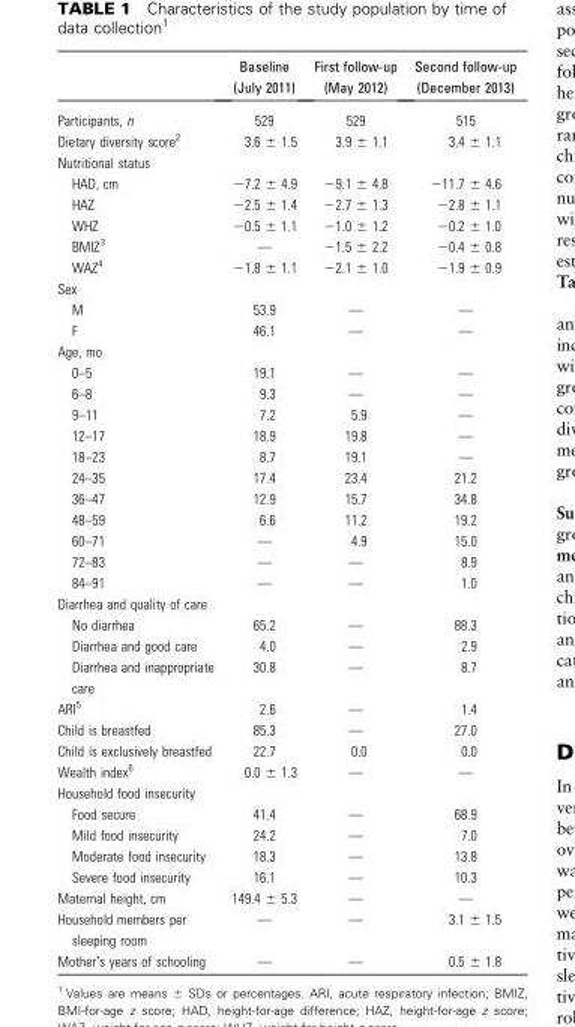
<table><thead><tr><td></td><td>Baseline (July 2011)</td><td>First follow-up (May 2012)</td><td>Second follow-up (December 2013)</td></tr></thead><tbody><tr><td>Participants, n</td><td>529</td><td>529</td><td>515</td></tr><tr><td>Dietary diversity score<sup>2</sup></td><td>3.6 ± 1.5</td><td>3.9 ± 1.1</td><td>3.4 ± 1.1</td></tr><tr><td colspan="4">Nutritional status</td></tr><tr><td>HAD, cm</td><td>−7.2 ± 4.9</td><td>−9.1 ± 4.8</td><td>−11.7 ± 4.6</td></tr><tr><td>HAZ</td><td>−2.5 ± 1.4</td><td>−2.7 ± 1.3</td><td>−2.8 ± 1.1</td></tr><tr><td>WHZ</td><td>−0.5 ± 1.1</td><td>−1.0 ± 1.2</td><td>−0.2 ± 1.0</td></tr><tr><td>BMIZ<sup>3</sup></td><td>—</td><td>−1.5 ± 2.2</td><td>−0.4 ± 0.8</td></tr><tr><td>WAZ<sup>4</sup></td><td>−1.8 ± 1.1</td><td>−2.1 ± 1.0</td><td>−1.9 ± 0.9</td></tr><tr><td colspan="4">Sex</td></tr><tr><td>M</td><td>53.9</td><td>—</td><td>—</td></tr><tr><td>F</td><td>46.1</td><td>—</td><td>—</td></tr><tr><td colspan="4">Age, mo</td></tr><tr><td>0–5</td><td>19.1</td><td>—</td><td>—</td></tr><tr><td>6–8</td><td>9.3</td><td>—</td><td>—</td></tr><tr><td>9–11</td><td>7.2</td><td>5.9</td><td>—</td></tr><tr><td>12–17</td><td>18.9</td><td>19.8</td><td>—</td></tr><tr><td>18–23</td><td>8.7</td><td>19.1</td><td>—</td></tr><tr><td>24–35</td><td>17.4</td><td>23.4</td><td>21.2</td></tr><tr><td>36–47</td><td>12.9</td><td>15.7</td><td>34.8</td></tr><tr><td>48–59</td><td>6.6</td><td>11.2</td><td>19.2</td></tr><tr><td>60–71</td><td>—</td><td>4.9</td><td>15.0</td></tr><tr><td>72–83</td><td>—</td><td>—</td><td>8.9</td></tr><tr><td>84–91</td><td>—</td><td>—</td><td>1.0</td></tr><tr><td colspan="4">Diarrhea and quality of care</td></tr><tr><td>No diarrhea</td><td>65.2</td><td>—</td><td>88.3</td></tr><tr><td>Diarrhea and good care</td><td>4.0</td><td>—</td><td>2.9</td></tr><tr><td>Diarrhea and inappropriate care</td><td>30.8</td><td>—</td><td>8.7</td></tr><tr><td>ARI<sup>5</sup></td><td>2.6</td><td>—</td><td>1.4</td></tr><tr><td>Child is breastfed</td><td>85.3</td><td>—</td><td>27.0</td></tr><tr><td>Child is exclusively breastfed</td><td>22.7</td><td>0.0</td><td>0.0</td></tr><tr><td>Wealth index<sup>6</sup></td><td>0.0 ± 1.3</td><td>—</td><td>—</td></tr><tr><td colspan="4">Household food insecurity</td></tr><tr><td>Food secure</td><td>41.4</td><td>—</td><td>68.9</td></tr><tr><td>Mild food insecurity</td><td>24.2</td><td>—</td><td>7.0</td></tr><tr><td>Moderate food insecurity</td><td>18.3</td><td>—</td><td>13.8</td></tr><tr><td>Severe food insecurity</td><td>16.1</td><td>—</td><td>10.3</td></tr><tr><td>Maternal height, cm</td><td>149.4 ± 5.3</td><td>—</td><td>—</td></tr><tr><td>Household members per sleeping room</td><td>—</td><td>—</td><td>3.1 ± 1.5</td></tr><tr><td>Mother’s years of schooling</td><td>—</td><td>—</td><td>0.5 ± 1.8</td></tr></tbody></table>